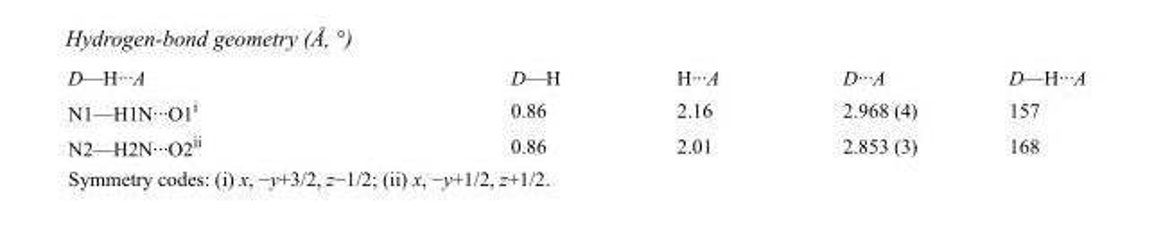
<table><tbody><tr><td>D—H···A</td><td>D—H</td><td>H···A</td><td>D···A</td><td>D—H···A</td></tr><tr><td>N1—H1N···O1<sup>i</sup></td><td>0.86</td><td>2.16</td><td>2.968 (4)</td><td>157</td></tr><tr><td>N2—H2N···O2<sup>ii</sup></td><td>0.86</td><td>2.01</td><td>2.853 (3)</td><td>168</td></tr></tbody></table>